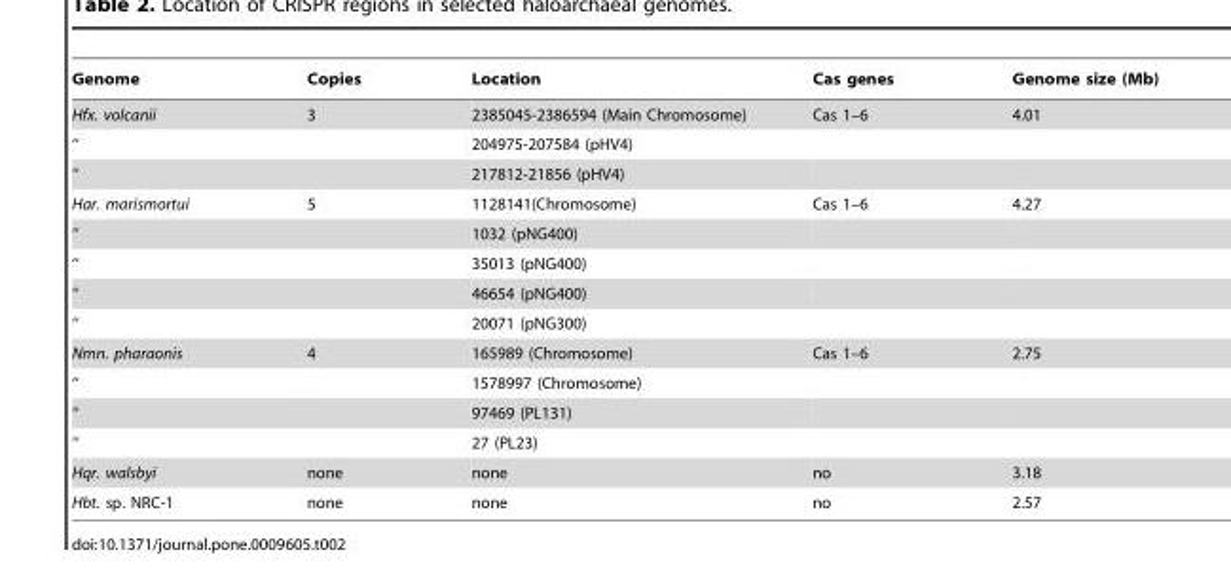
<table><thead><tr><td>Genome</td><td>Copies</td><td>Location</td><td>Cas genes</td><td>Genome size (Mb)</td></tr></thead><tbody><tr><td>Hfx. volcanii</td><td>3</td><td>2385045-2386594 (Main Chromosome)</td><td>Cas 1–6</td><td>4.01</td></tr><tr><td>‘‘</td><td></td><td>204975-207584 (pHV4)</td><td></td><td></td></tr><tr><td>‘‘</td><td></td><td>217812-21856 (pHV4)</td><td></td><td></td></tr><tr><td>Har. marismortui</td><td>5</td><td>1128141(Chromosome)</td><td>Cas 1–6</td><td>4.27</td></tr><tr><td>‘‘</td><td></td><td>1032 (pNG400)</td><td></td><td></td></tr><tr><td>‘‘</td><td></td><td>35013 (pNG400)</td><td></td><td></td></tr><tr><td>‘‘</td><td></td><td>46654 (pNG400)</td><td></td><td></td></tr><tr><td>‘‘</td><td></td><td>20071 (pNG300)</td><td></td><td></td></tr><tr><td>Nmn. pharaonis</td><td>4</td><td>165989 (Chromosome)</td><td>Cas 1–6</td><td>2.75</td></tr><tr><td>‘‘</td><td></td><td>1578997 (Chromosome)</td><td></td><td></td></tr><tr><td>‘‘</td><td></td><td>97469 (PL131)</td><td></td><td></td></tr><tr><td>‘‘</td><td></td><td>27 (PL23)</td><td></td><td></td></tr><tr><td>Hqr. walsbyi</td><td>none</td><td>none</td><td>no</td><td>3.18</td></tr><tr><td>Hbt. sp. NRC-1</td><td>none</td><td>none</td><td>no</td><td>2.57</td></tr></tbody></table>